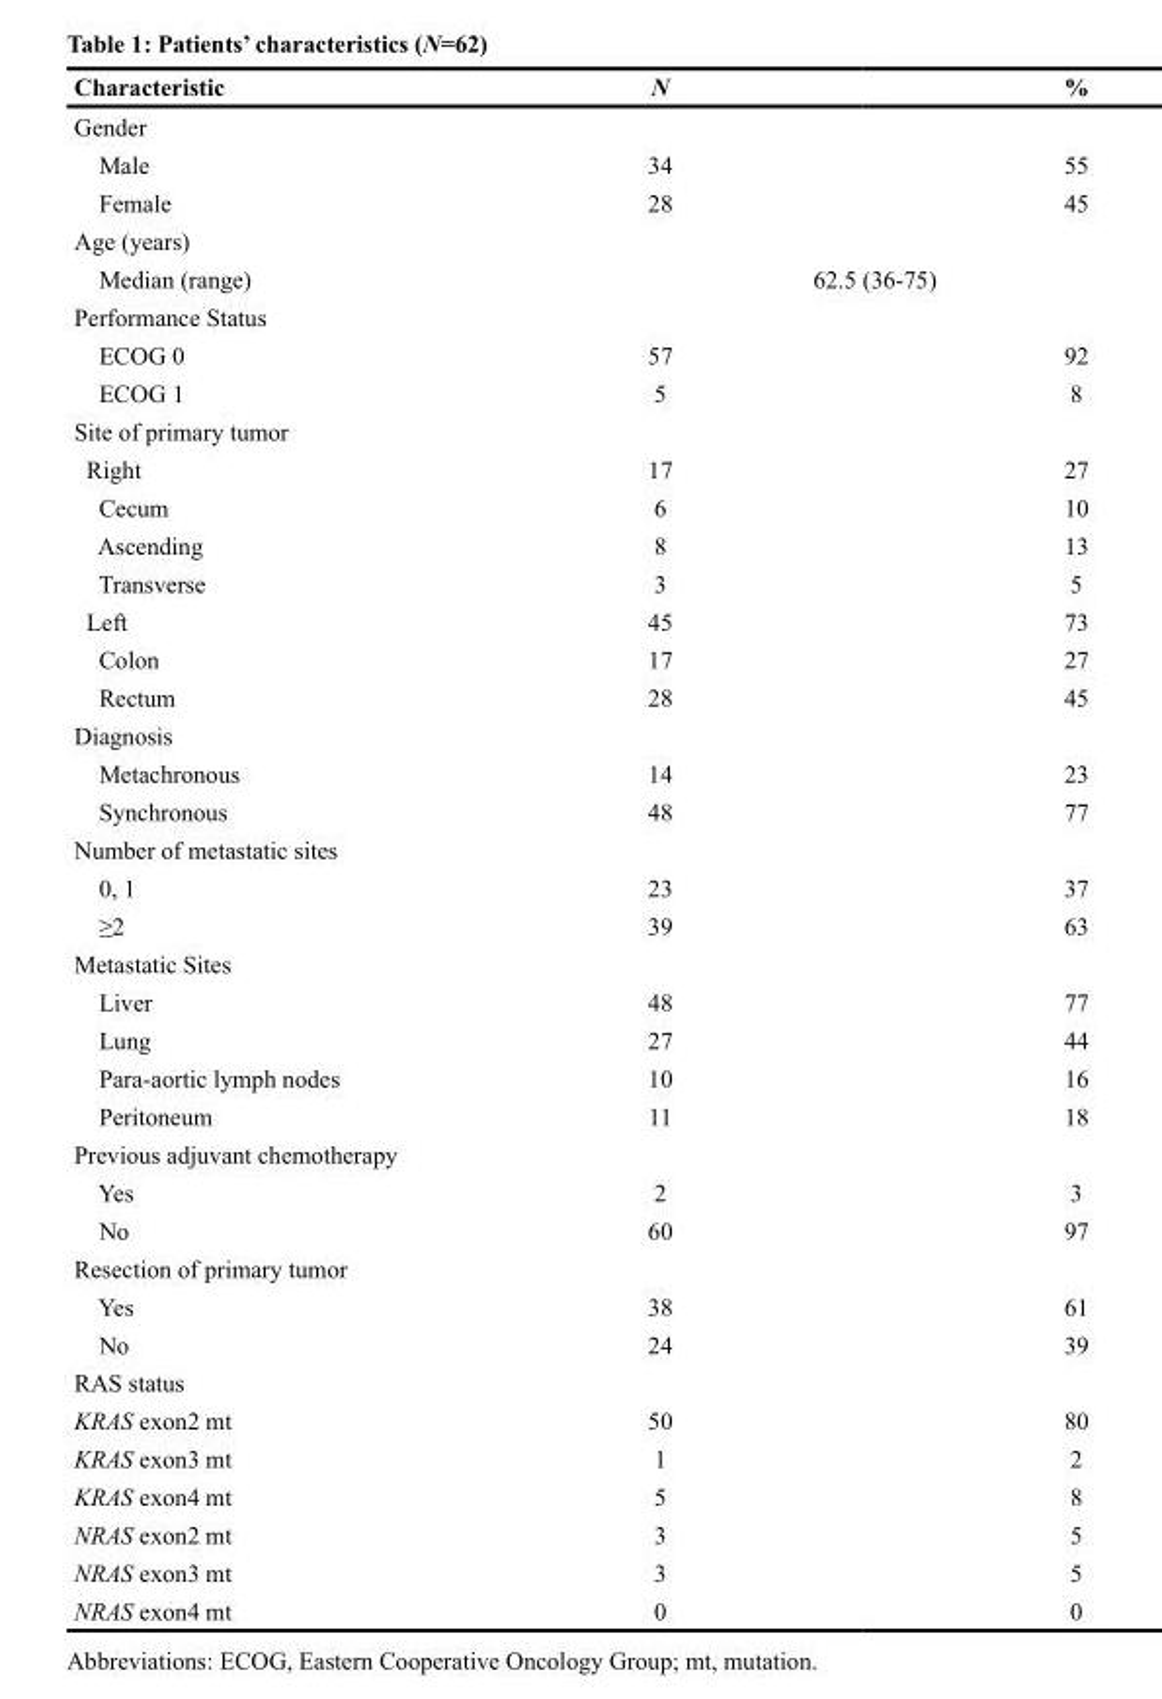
<table><thead><tr><td>Characteristic</td><td>N</td><td>%</td></tr></thead><tbody><tr><td colspan="3">Gender</td></tr><tr><td>Male</td><td>34</td><td>55</td></tr><tr><td>Female</td><td>28</td><td>45</td></tr><tr><td colspan="3">Age (years)</td></tr><tr><td>Median (range)</td><td colspan="2">62.5 (36-75)</td></tr><tr><td colspan="3">Performance Status</td></tr><tr><td>ECOG 0</td><td>57</td><td>92</td></tr><tr><td>ECOG 1</td><td>5</td><td>8</td></tr><tr><td colspan="3">Site of primary tumor</td></tr><tr><td>Right</td><td>17</td><td>27</td></tr><tr><td>Cecum</td><td>6</td><td>10</td></tr><tr><td>Ascending</td><td>8</td><td>13</td></tr><tr><td>Transverse</td><td>3</td><td>5</td></tr><tr><td>Left</td><td>45</td><td>73</td></tr><tr><td>Colon</td><td>17</td><td>27</td></tr><tr><td>Rectum</td><td>28</td><td>45</td></tr><tr><td colspan="3">Diagnosis</td></tr><tr><td>Metachronous</td><td>14</td><td>23</td></tr><tr><td>Synchronous</td><td>48</td><td>77</td></tr><tr><td colspan="3">Number of metastatic sites</td></tr><tr><td>0, 1</td><td>23</td><td>37</td></tr><tr><td>≥2</td><td>39</td><td>63</td></tr><tr><td colspan="3">Metastatic Sites</td></tr><tr><td>Liver</td><td>48</td><td>77</td></tr><tr><td>Lung</td><td>27</td><td>44</td></tr><tr><td>Para-aortic lymph nodes</td><td>10</td><td>16</td></tr><tr><td>Peritoneum</td><td>11</td><td>18</td></tr><tr><td colspan="3">Previous adjuvant chemotherapy</td></tr><tr><td>Yes</td><td>2</td><td>3</td></tr><tr><td>No</td><td>60</td><td>97</td></tr><tr><td colspan="3">Resection of primary tumor</td></tr><tr><td>Yes</td><td>38</td><td>61</td></tr><tr><td>No</td><td>24</td><td>39</td></tr><tr><td colspan="3">RAS status</td></tr><tr><td>KRAS exon2 mt</td><td>50</td><td>80</td></tr><tr><td>KRAS exon3 mt</td><td>1</td><td>2</td></tr><tr><td>KRAS exon4 mt</td><td>5</td><td>8</td></tr><tr><td>NRAS exon2 mt</td><td>3</td><td>5</td></tr><tr><td>NRAS exon3 mt</td><td>3</td><td>5</td></tr><tr><td>NRAS exon4 mt</td><td>0</td><td>0</td></tr></tbody></table>